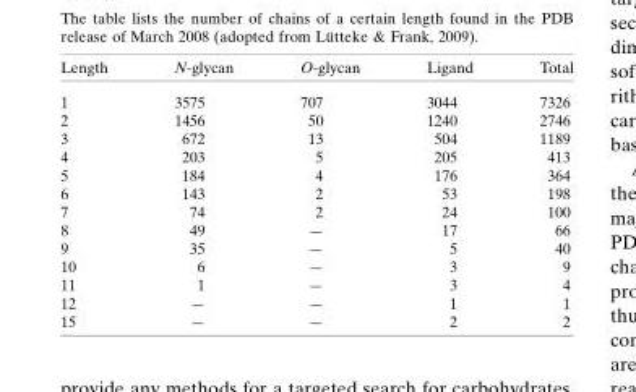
<table><thead><tr><td>Length</td><td>N-glycan</td><td>O-glycan</td><td>Ligand</td><td>Total</td></tr></thead><tbody><tr><td>1</td><td>3575</td><td>707</td><td>3044</td><td>7326</td></tr><tr><td>2</td><td>1456</td><td>50</td><td>1240</td><td>2746</td></tr><tr><td>3</td><td>672</td><td>13</td><td>504</td><td>1189</td></tr><tr><td>4</td><td>203</td><td>5</td><td>205</td><td>413</td></tr><tr><td>5</td><td>184</td><td>4</td><td>176</td><td>364</td></tr><tr><td>6</td><td>143</td><td>2</td><td>53</td><td>198</td></tr><tr><td>7</td><td>74</td><td>2</td><td>24</td><td>100</td></tr><tr><td>8</td><td>49</td><td>—</td><td>17</td><td>66</td></tr><tr><td>9</td><td>35</td><td>—</td><td>5</td><td>40</td></tr><tr><td>10</td><td>6</td><td>—</td><td>3</td><td>9</td></tr><tr><td>11</td><td>1</td><td>—</td><td>3</td><td>4</td></tr><tr><td>12</td><td>—</td><td>—</td><td>1</td><td>1</td></tr><tr><td>15</td><td>—</td><td>—</td><td>2</td><td>2</td></tr></tbody></table>